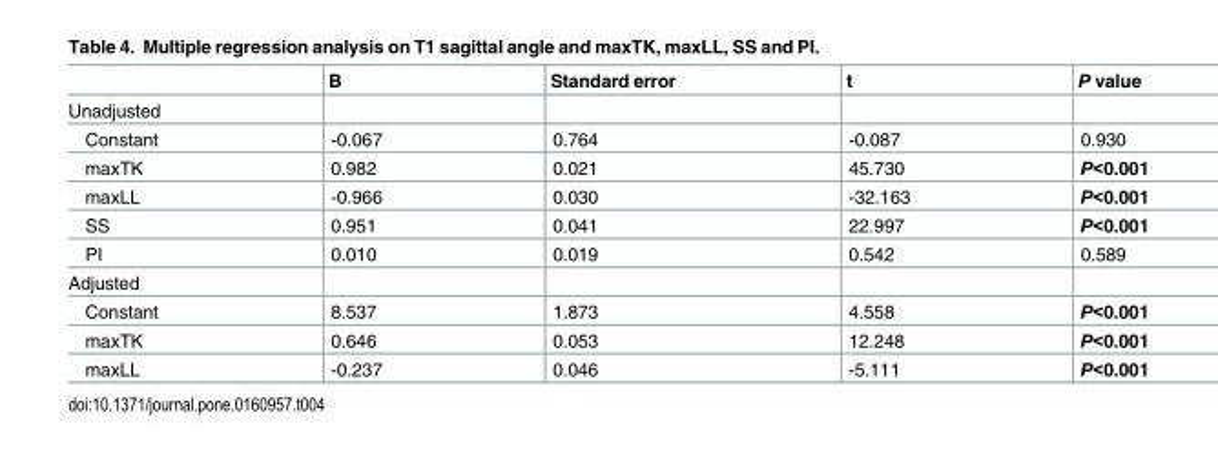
<table><thead><tr><td></td><td>B</td><td>Standard error</td><td>t</td><td>P value</td></tr></thead><tbody><tr><td colspan="5">Unadjusted</td></tr><tr><td>Constant</td><td>-0.067</td><td>0.764</td><td>-0.087</td><td>0.930</td></tr><tr><td>maxTK</td><td>0.982</td><td>0.021</td><td>45.730</td><td>P&lt;0.001</td></tr><tr><td>maxLL</td><td>-0.966</td><td>0.030</td><td>-32.163</td><td>P&lt;0.001</td></tr><tr><td>SS</td><td>0.951</td><td>0.041</td><td>22.997</td><td>P&lt;0.001</td></tr><tr><td>PI</td><td>0.010</td><td>0.019</td><td>0.542</td><td>0.589</td></tr><tr><td colspan="5">Adjusted</td></tr><tr><td>Constant</td><td>8.537</td><td>1.873</td><td>4.558</td><td>P&lt;0.001</td></tr><tr><td>maxTK</td><td>0.646</td><td>0.053</td><td>12.248</td><td>P&lt;0.001</td></tr><tr><td>maxLL</td><td>-0.237</td><td>0.046</td><td>-5.111</td><td>P&lt;0.001</td></tr></tbody></table>